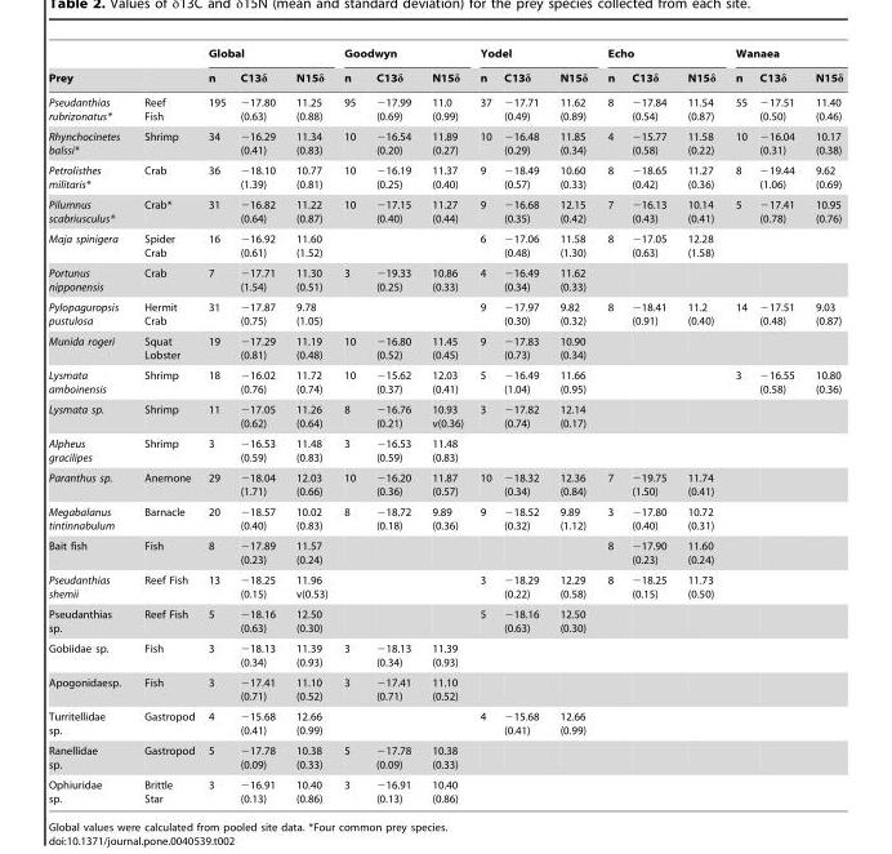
<table><thead><tr><td rowspan="2"><sup>Prey</sup></td><td rowspan="2"></td><td colspan="3">Global</td><td colspan="3"><sup>Goodwyn</sup></td><td colspan="3"><sup>Yodel</sup></td><td colspan="3"><sup>Echo</sup></td><td colspan="3">Wanaea</td></tr><tr><td><sup>n</sup></td><td><sup>C13δ</sup></td><td><sup>N15δ</sup></td><td><sup>n</sup></td><td><sup>C13δ</sup></td><td><sup>N15δ</sup></td><td><sup>n</sup></td><td><sup>C13δ</sup></td><td><sup>N15δ</sup></td><td><sup>n</sup></td><td><sup>C13δ</sup></td><td><sup>N15δ</sup></td><td><sup>n</sup></td><td><sup>C13δ</sup></td><td><sup>N15δ</sup></td></tr></thead><tbody><tr><td><sup>Pseudanthias rubrizonatus*</sup></td><td><sup>Reef Fish</sup></td><td><sup>195</sup></td><td><sup>−17.80 (0.63)</sup></td><td><sup>11.25 (0.88)</sup></td><td><sup>95</sup></td><td><sup>−17.99 (0.69)</sup></td><td><sup>11.0 (0.99)</sup></td><td><sup>37</sup></td><td><sup>−17.71 (0.49)</sup></td><td><sup>11.62 (0.89)</sup></td><td><sup>8</sup></td><td><sup>−17.84 (0.54)</sup></td><td><sup>11.54 (0.87)</sup></td><td><sup>55</sup></td><td><sup>−17.51 (0.50)</sup></td><td><sup>11.40 (0.46)</sup></td></tr><tr><td><sup>Rhynchocinetes balssi*</sup></td><td><sup>Shrimp</sup></td><td><sup>34</sup></td><td><sup>−16.29 (0.41)</sup></td><td><sup>11.34 (0.83)</sup></td><td><sup>10</sup></td><td><sup>−16.54 (0.20)</sup></td><td><sup>11.89 (0.27)</sup></td><td><sup>10</sup></td><td><sup>−16.48 (0.29)</sup></td><td><sup>11.85 (0.34)</sup></td><td><sup>4</sup></td><td><sup>−15.77 (0.58)</sup></td><td><sup>11.58 (0.22)</sup></td><td><sup>10</sup></td><td><sup>−16.04 (0.31)</sup></td><td><sup>10.17 (0.38)</sup></td></tr><tr><td><sup>Petrolisthes militaris*</sup></td><td><sup>Crab</sup></td><td><sup>36</sup></td><td><sup>−18.10 (1.39)</sup></td><td><sup>10.77 (0.81)</sup></td><td><sup>10</sup></td><td><sup>−16.19 (0.25)</sup></td><td><sup>11.37 (0.40)</sup></td><td><sup>9</sup></td><td><sup>−18.49 (0.57)</sup></td><td><sup>10.60 (0.33)</sup></td><td><sup>8</sup></td><td><sup>−18.65 (0.42)</sup></td><td><sup>11.27 (0.36)</sup></td><td><sup>8</sup></td><td><sup>−19.44 (1.06)</sup></td><td><sup>9.62 (0.69)</sup></td></tr><tr><td><sup>Pilumnus scabriusculus*</sup></td><td><sup>Crab*</sup></td><td><sup>31</sup></td><td><sup>−16.82 (0.64)</sup></td><td><sup>11.22 (0.87)</sup></td><td><sup>10</sup></td><td><sup>−17.15 (0.40)</sup></td><td><sup>11.27 (0.44)</sup></td><td><sup>9</sup></td><td><sup>−16.68 (0.35)</sup></td><td><sup>12.15 (0.42)</sup></td><td><sup>7</sup></td><td><sup>−16.13 (0.43)</sup></td><td><sup>10.14 (0.41)</sup></td><td><sup>5</sup></td><td><sup>−17.41 (0.78)</sup></td><td><sup>10.95 (0.76)</sup></td></tr><tr><td><sup>Maja spinigera</sup></td><td><sup>Spider Crab</sup></td><td><sup>16</sup></td><td><sup>−16.92 (0.61)</sup></td><td><sup>11.60 (1.52)</sup></td><td></td><td></td><td></td><td><sup>6</sup></td><td><sup>−17.06 (0.48)</sup></td><td><sup>11.58 (1.30)</sup></td><td><sup>8</sup></td><td><sup>−17.05 (0.63)</sup></td><td><sup>12.28 (1.58)</sup></td><td></td><td></td><td></td></tr><tr><td><sup>Portunus nipponensis</sup></td><td><sup>Crab</sup></td><td><sup>7</sup></td><td><sup>−17.71 (1.54)</sup></td><td><sup>11.30 (0.51)</sup></td><td><sup>3</sup></td><td><sup>−19.33 (0.25)</sup></td><td><sup>10.86 (0.33)</sup></td><td><sup>4</sup></td><td><sup>−16.49 (0.34)</sup></td><td><sup>11.62 (0.33)</sup></td><td></td><td></td><td></td><td></td><td></td><td></td></tr><tr><td><sup>Pylopaguropsis pustulosa</sup></td><td><sup>Hermit Crab</sup></td><td><sup>31</sup></td><td><sup>−17.87 (0.75)</sup></td><td><sup>9.78 (1.05)</sup></td><td></td><td></td><td></td><td><sup>9</sup></td><td><sup>−17.97 (0.30)</sup></td><td><sup>9.82 (0.32)</sup></td><td><sup>8</sup></td><td><sup>−18.41 (0.91)</sup></td><td><sup>11.2 (0.40)</sup></td><td><sup>14</sup></td><td><sup>−17.51 (0.48)</sup></td><td><sup>9.03 (0.87)</sup></td></tr><tr><td><sup>Munida rogeri</sup></td><td><sup>Squat Lobster</sup></td><td><sup>19</sup></td><td><sup>−17.29 (0.81)</sup></td><td><sup>11.19 (0.48)</sup></td><td><sup>10</sup></td><td><sup>−16.80 (0.52)</sup></td><td><sup>11.45 (0.45)</sup></td><td><sup>9</sup></td><td><sup>−17.83 (0.73)</sup></td><td><sup>10.90 (0.34)</sup></td><td></td><td></td><td></td><td></td><td></td><td></td></tr><tr><td><sup>Lysmata amboinensis</sup></td><td><sup>Shrimp</sup></td><td><sup>18</sup></td><td><sup>−16.02 (0.76)</sup></td><td><sup>11.72 (0.74)</sup></td><td><sup>10</sup></td><td><sup>−15.62 (0.37)</sup></td><td><sup>12.03 (0.41)</sup></td><td><sup>5</sup></td><td><sup>−16.49 (1.04)</sup></td><td><sup>11.66 (0.95)</sup></td><td></td><td></td><td></td><td><sup>3</sup></td><td><sup>−16.55 (0.58)</sup></td><td><sup>10.80 (0.36)</sup></td></tr><tr><td><sup>Lysmata sp.</sup></td><td><sup>Shrimp</sup></td><td><sup>11</sup></td><td><sup>−17.05 (0.62)</sup></td><td><sup>11.26 (0.64)</sup></td><td><sup>8</sup></td><td><sup>−16.76 (0.21)</sup></td><td><sup>10.93 v(0.36)</sup></td><td><sup>3</sup></td><td><sup>−17.82 (0.74)</sup></td><td><sup>12.14 (0.17)</sup></td><td></td><td></td><td></td><td></td><td></td><td></td></tr><tr><td><sup>Alpheus gracilipes</sup></td><td><sup>Shrimp</sup></td><td><sup>3</sup></td><td><sup>−16.53 (0.59)</sup></td><td><sup>11.48 (0.83)</sup></td><td><sup>3</sup></td><td><sup>−16.53 (0.59)</sup></td><td><sup>11.48 (0.83)</sup></td><td></td><td></td><td></td><td></td><td></td><td></td><td></td><td></td><td></td></tr><tr><td><sup>Paranthus sp.</sup></td><td><sup>Anemone</sup></td><td><sup>29</sup></td><td><sup>−18.04 (1.71)</sup></td><td><sup>12.03 (0.66)</sup></td><td><sup>10</sup></td><td><sup>−16.20 (0.36)</sup></td><td><sup>11.87 (0.57)</sup></td><td><sup>10</sup></td><td><sup>−18.32 (0.34)</sup></td><td><sup>12.36 (0.84)</sup></td><td><sup>7</sup></td><td><sup>−19.75 (1.50)</sup></td><td><sup>11.74 (0.41)</sup></td><td></td><td></td><td></td></tr><tr><td><sup>Megabalanus tintinnabulum</sup></td><td><sup>Barnacle</sup></td><td><sup>20</sup></td><td><sup>−18.57 (0.40)</sup></td><td><sup>10.02 (0.83)</sup></td><td><sup>8</sup></td><td><sup>−18.72 (0.18)</sup></td><td><sup>9.89 (0.36)</sup></td><td><sup>9</sup></td><td><sup>−18.52 (0.32)</sup></td><td><sup>9.89 (1.12)</sup></td><td><sup>3</sup></td><td><sup>−17.80 (0.40)</sup></td><td><sup>10.72 (0.31)</sup></td><td></td><td></td><td></td></tr><tr><td><sup>Bait fish</sup></td><td><sup>Fish</sup></td><td><sup>8</sup></td><td><sup>−17.89 (0.23)</sup></td><td><sup>11.57 (0.24)</sup></td><td></td><td></td><td></td><td></td><td></td><td></td><td><sup>8</sup></td><td><sup>−17.90 (0.23)</sup></td><td><sup>11.60 (0.24)</sup></td><td></td><td></td><td></td></tr><tr><td><sup>Pseudanthias shemii</sup></td><td><sup>Reef Fish</sup></td><td><sup>13</sup></td><td><sup>−18.25 (0.15)</sup></td><td><sup>11.96 v(0.53)</sup></td><td></td><td></td><td></td><td><sup>3</sup></td><td><sup>−18.29 (0.22)</sup></td><td><sup>12.29 (0.58)</sup></td><td><sup>8</sup></td><td><sup>−18.25 (0.15)</sup></td><td><sup>11.73 (0.50)</sup></td><td></td><td></td><td></td></tr><tr><td><sup>Pseudanthias sp.</sup></td><td><sup>Reef Fish</sup></td><td><sup>5</sup></td><td><sup>−18.16 (0.63)</sup></td><td><sup>12.50 (0.30)</sup></td><td></td><td></td><td></td><td><sup>5</sup></td><td><sup>−18.16 (0.63)</sup></td><td><sup>12.50 (0.30)</sup></td><td></td><td></td><td></td><td></td><td></td><td></td></tr><tr><td><sup>Gobiidae sp.</sup></td><td><sup>Fish</sup></td><td><sup>3</sup></td><td><sup>−18.13 (0.34)</sup></td><td><sup>11.39 (0.93)</sup></td><td><sup>3</sup></td><td><sup>−18.13 (0.34)</sup></td><td><sup>11.39 (0.93)</sup></td><td></td><td></td><td></td><td></td><td></td><td></td><td></td><td></td><td></td></tr><tr><td><sup>Apogonidaesp.</sup></td><td><sup>Fish</sup></td><td><sup>3</sup></td><td><sup>−17.41 (0.71)</sup></td><td><sup>11.10 (0.52)</sup></td><td><sup>3</sup></td><td><sup>−17.41 (0.71)</sup></td><td><sup>11.10 (0.52)</sup></td><td></td><td></td><td></td><td></td><td></td><td></td><td></td><td></td><td></td></tr><tr><td><sup>Turritellidae sp.</sup></td><td><sup>Gastropod</sup></td><td><sup>4</sup></td><td><sup>−15.68 (0.41)</sup></td><td><sup>12.66 (0.99)</sup></td><td></td><td></td><td></td><td><sup>4</sup></td><td><sup>−15.68 (0.41)</sup></td><td><sup>12.66 (0.99)</sup></td><td></td><td></td><td></td><td></td><td></td><td></td></tr><tr><td><sup>Ranellidae sp.</sup></td><td><sup>Gastropod</sup></td><td><sup>5</sup></td><td><sup>−17.78 (0.09)</sup></td><td><sup>10.38 (0.33)</sup></td><td><sup>5</sup></td><td><sup>−17.78 (0.09)</sup></td><td><sup>10.38 (0.33)</sup></td><td></td><td></td><td></td><td></td><td></td><td></td><td></td><td></td><td></td></tr><tr><td><sup>Ophiuridae sp.</sup></td><td><sup>Brittle Star</sup></td><td><sup>3</sup></td><td><sup>−16.91 (0.13)</sup></td><td><sup>10.40 (0.86)</sup></td><td><sup>3</sup></td><td><sup>−16.91 (0.13)</sup></td><td><sup>10.40 (0.86)</sup></td><td></td><td></td><td></td><td></td><td></td><td></td><td></td><td></td><td></td></tr></tbody></table>